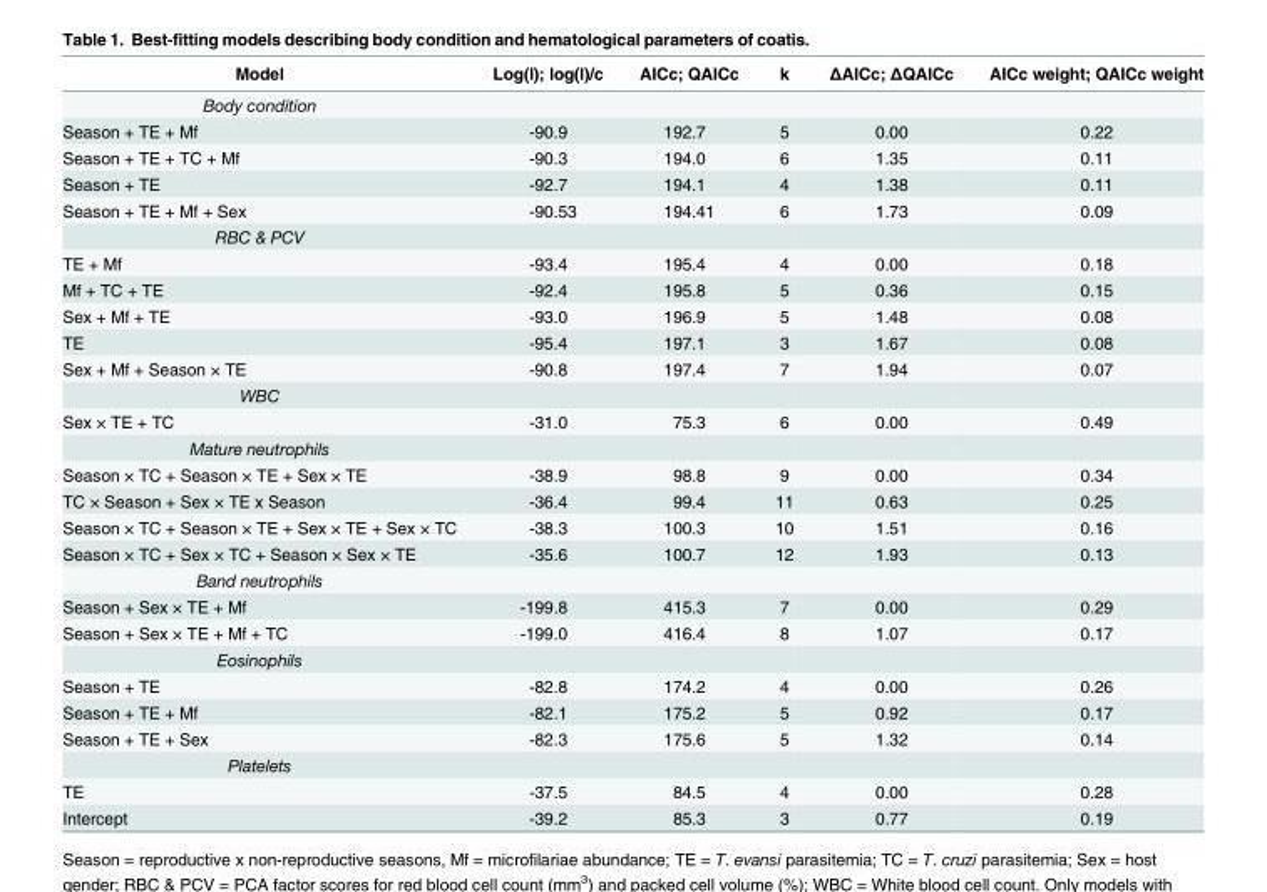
<table><thead><tr><td>Model</td><td>Log(l); log(l)/c</td><td>AICc; QAICc</td><td>k</td><td>ΔAICc; ΔQAICc</td><td>AICc weight; QAICc weight</td></tr></thead><tbody><tr><td colspan="6">Body condition</td></tr><tr><td>Season + TE + Mf</td><td>-90.9</td><td>192.7</td><td>5</td><td>0.00</td><td>0.22</td></tr><tr><td>Season + TE + TC + Mf</td><td>-90.3</td><td>194.0</td><td>6</td><td>1.35</td><td>0.11</td></tr><tr><td>Season + TE</td><td>-92.7</td><td>194.1</td><td>4</td><td>1.38</td><td>0.11</td></tr><tr><td>Season + TE + Mf + Sex</td><td>-90.53</td><td>194.41</td><td>6</td><td>1.73</td><td>0.09</td></tr><tr><td colspan="6">RBC &amp; PCV</td></tr><tr><td>TE + Mf</td><td>-93.4</td><td>195.4</td><td>4</td><td>0.00</td><td>0.18</td></tr><tr><td>Mf + TC + TE</td><td>-92.4</td><td>195.8</td><td>5</td><td>0.36</td><td>0.15</td></tr><tr><td>Sex + Mf + TE</td><td>-93.0</td><td>196.9</td><td>5</td><td>1.48</td><td>0.08</td></tr><tr><td>TE</td><td>-95.4</td><td>197.1</td><td>3</td><td>1.67</td><td>0.08</td></tr><tr><td>Sex + Mf + Season × TE</td><td>-90.8</td><td>197.4</td><td>7</td><td>1.94</td><td>0.07</td></tr><tr><td colspan="6">WBC</td></tr><tr><td>Sex × TE + TC</td><td>-31.0</td><td>75.3</td><td>6</td><td>0.00</td><td>0.49</td></tr><tr><td colspan="6">Mature neutrophils</td></tr><tr><td>Season × TC + Season × TE + Sex × TE</td><td>-38.9</td><td>98.8</td><td>9</td><td>0.00</td><td>0.34</td></tr><tr><td>TC × Season + Sex × TE x Season</td><td>-36.4</td><td>99.4</td><td>11</td><td>0.63</td><td>0.25</td></tr><tr><td>Season × TC + Season × TE + Sex × TE + Sex × TC</td><td>-38.3</td><td>100.3</td><td>10</td><td>1.51</td><td>0.16</td></tr><tr><td>Season × TC + Sex × TC + Season × Sex × TE</td><td>-35.6</td><td>100.7</td><td>12</td><td>1.93</td><td>0.13</td></tr><tr><td colspan="6">Band neutrophils</td></tr><tr><td>Season + Sex × TE + Mf</td><td>-199.8</td><td>415.3</td><td>7</td><td>0.00</td><td>0.29</td></tr><tr><td>Season + Sex × TE + Mf + TC</td><td>-199.0</td><td>416.4</td><td>8</td><td>1.07</td><td>0.17</td></tr><tr><td colspan="6">Eosinophils</td></tr><tr><td>Season + TE</td><td>-82.8</td><td>174.2</td><td>4</td><td>0.00</td><td>0.26</td></tr><tr><td>Season + TE + Mf</td><td>-82.1</td><td>175.2</td><td>5</td><td>0.92</td><td>0.17</td></tr><tr><td>Season + TE + Sex</td><td>-82.3</td><td>175.6</td><td>5</td><td>1.32</td><td>0.14</td></tr><tr><td colspan="6">Platelets</td></tr><tr><td>TE</td><td>-37.5</td><td>84.5</td><td>4</td><td>0.00</td><td>0.28</td></tr><tr><td>Intercept</td><td>-39.2</td><td>85.3</td><td>3</td><td>0.77</td><td>0.19</td></tr></tbody></table>